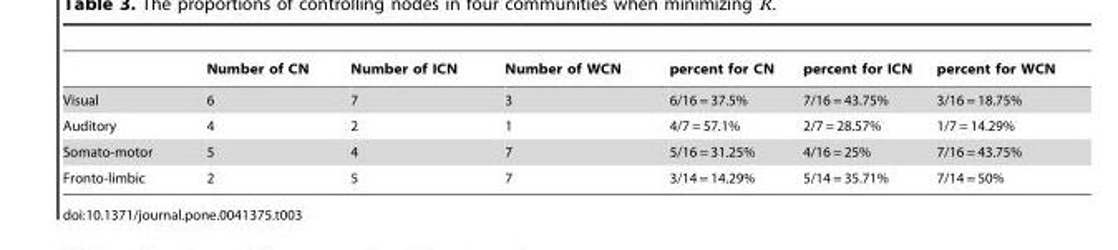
<table><thead><tr><td></td><td>Number of CN</td><td>Number of ICN</td><td>Number of WCN</td><td>percent for CN</td><td>percent for ICN</td><td>percent for WCN</td></tr></thead><tbody><tr><td>Visual</td><td>6</td><td>7</td><td>3</td><td>6/16 = 37.5%</td><td>7/16 = 43.75%</td><td>3/16 = 18.75%</td></tr><tr><td>Auditory</td><td>4</td><td>2</td><td>1</td><td>4/7 = 57.1%</td><td>2/7 = 28.57%</td><td>1/7 = 14.29%</td></tr><tr><td>Somato-motor</td><td>5</td><td>4</td><td>7</td><td>5/16 = 31.25%</td><td>4/16 = 25%</td><td>7/16 = 43.75%</td></tr><tr><td>Fronto-limbic</td><td>2</td><td>5</td><td>7</td><td>3/14 = 14.29%</td><td>5/14 = 35.71%</td><td>7/14 = 50%</td></tr></tbody></table>